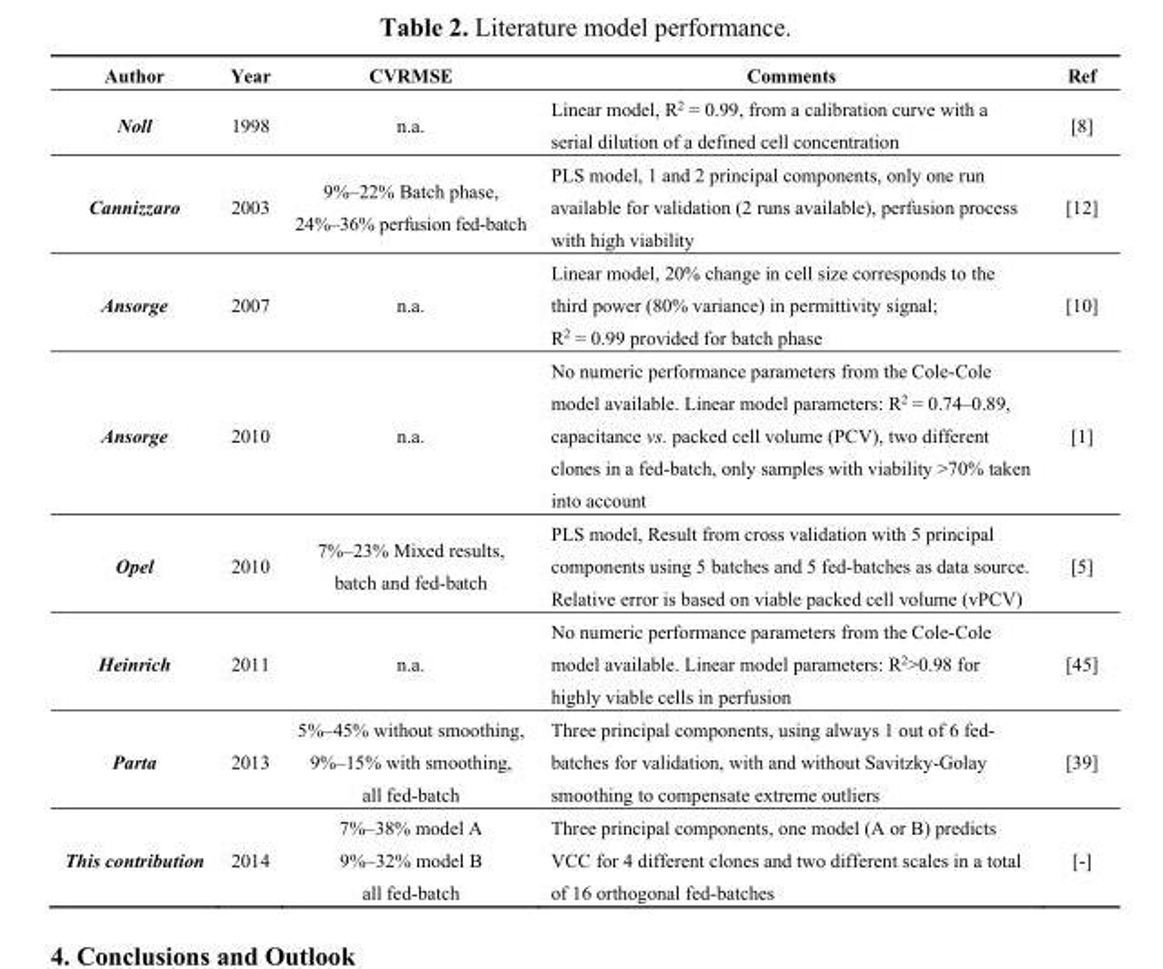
<table><thead><tr><td>Author</td><td>Year</td><td>CVRMSE</td><td>Comments</td><td>Ref</td></tr></thead><tbody><tr><td>Noll</td><td>1998</td><td>n.a.</td><td>Linear model, R<sup>2</sup> = 0.99, from a calibration curve with a serial dilution of a defined cell concentration</td><td>[8]</td></tr><tr><td>Cannizzaro</td><td>2003</td><td>9%–22% Batch phase, 24%–36% perfusion fed-batch</td><td>PLS model, 1 and 2 principal components, only one run available for validation (2 runs available), perfusion process with high viability</td><td>[12]</td></tr><tr><td>Ansorge</td><td>2007</td><td>n.a.</td><td>Linear model, 20% change in cell size corresponds to the third power (80% variance) in permittivity signal; R<sup>2</sup> = 0.99 provided for batch phase</td><td>[10]</td></tr><tr><td>Ansorge</td><td>2010</td><td>n.a.</td><td>No numeric performance parameters from the Cole-Cole model available. Linear model parameters: R<sup>2</sup> = 0.74–0.89, capacitance vs. packed cell volume (PCV), two different clones in a fed-batch, only samples with viability &gt;70% taken into account</td><td>[1]</td></tr><tr><td>Opel</td><td>2010</td><td>7%–23% Mixed results, batch and fed-batch</td><td>PLS model, Result from cross validation with 5 principal components using 5 batches and 5 fed-batches as data source. Relative error is based on viable packed cell volume (vPCV)</td><td>[5]</td></tr><tr><td>Heinrich</td><td>2011</td><td>n.a.</td><td>No numeric performance parameters from the Cole-Cole model available. Linear model parameters: R<sup>2</sup>&gt;0.98 for highly viable cells in perfusion</td><td>[45]</td></tr><tr><td>Parta</td><td>2013</td><td>5%–45% without smoothing, 9%–15% with smoothing, all fed-batch</td><td>Three principal components, using always 1 out of 6 fed- batches for validation, with and without Savitzky-Golay smoothing to compensate extreme outliers</td><td>[39]</td></tr><tr><td>This contribution</td><td>2014</td><td>7%–38% model A 9%–32% model B all fed-batch</td><td>Three principal components, one model (A or B) predicts VCC for 4 different clones and two different scales in a total of 16 orthogonal fed-batches</td><td>[-]</td></tr></tbody></table>